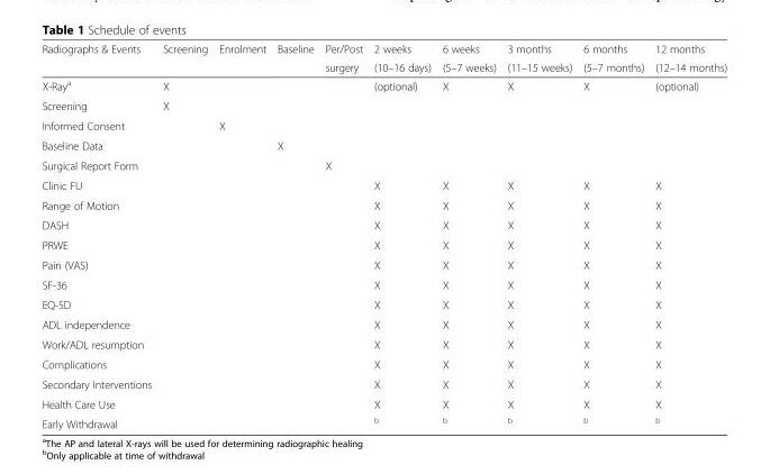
<table><thead><tr><td rowspan="2">Radiographs &amp; Events</td><td rowspan="2">Screening</td><td rowspan="2">Enrolment</td><td rowspan="2">Baseline</td><td rowspan="2">Per/Post surgery</td><td rowspan="2">2 weeks (10–16 days)</td><td rowspan="2">6 weeks (5–7 weeks)</td><td rowspan="2">3 months (11–15 weeks)</td><td rowspan="2">6 months (5–7 months)</td><td rowspan="2">12 months (12–14 months)</td></tr><tr></tr></thead><tbody><tr><td>X-Ray<sup>a</sup></td><td>X</td><td></td><td></td><td></td><td>(optional)</td><td>X</td><td>X</td><td>X</td><td>(optional)</td></tr><tr><td>Screening</td><td>X</td><td></td><td></td><td></td><td></td><td></td><td></td><td></td><td></td></tr><tr><td>Informed Consent</td><td></td><td>X</td><td></td><td></td><td></td><td></td><td></td><td></td><td></td></tr><tr><td>Baseline Data</td><td></td><td></td><td>X</td><td></td><td></td><td></td><td></td><td></td><td></td></tr><tr><td>Surgical Report Form</td><td></td><td></td><td></td><td>X</td><td></td><td></td><td></td><td></td><td></td></tr><tr><td>Clinic FU</td><td></td><td></td><td></td><td></td><td>X</td><td>X</td><td>X</td><td>X</td><td>X</td></tr><tr><td>Range of Motion</td><td></td><td></td><td></td><td></td><td>X</td><td>X</td><td>X</td><td>X</td><td>X</td></tr><tr><td>DASH</td><td></td><td></td><td></td><td></td><td>X</td><td>X</td><td>X</td><td>X</td><td>X</td></tr><tr><td>PRWE</td><td></td><td></td><td></td><td></td><td>X</td><td>X</td><td>X</td><td>X</td><td>X</td></tr><tr><td>Pain (VAS)</td><td></td><td></td><td></td><td></td><td>X</td><td>X</td><td>X</td><td>X</td><td>X</td></tr><tr><td>SF-36</td><td></td><td></td><td></td><td></td><td>X</td><td>X</td><td>X</td><td>X</td><td>X</td></tr><tr><td>EQ-5D</td><td></td><td></td><td></td><td></td><td>X</td><td>X</td><td>X</td><td>X</td><td>X</td></tr><tr><td>ADL independence</td><td></td><td></td><td></td><td></td><td>X</td><td>X</td><td>X</td><td>X</td><td>X</td></tr><tr><td>Work/ADL resumption</td><td></td><td></td><td></td><td></td><td>X</td><td>X</td><td>X</td><td>X</td><td>X</td></tr><tr><td>Complications</td><td></td><td></td><td></td><td></td><td>X</td><td>X</td><td>X</td><td>X</td><td>X</td></tr><tr><td>Secondary Interventions</td><td></td><td></td><td></td><td></td><td>X</td><td>X</td><td>X</td><td>X</td><td>X</td></tr><tr><td>Health Care Use</td><td></td><td></td><td></td><td></td><td>X</td><td>X</td><td>X</td><td>X</td><td>X</td></tr><tr><td>Early Withdrawal</td><td></td><td></td><td></td><td></td><td><sup>b</sup></td><td><sup>b</sup></td><td><sup>b</sup></td><td><sup>b</sup></td><td><sup>b</sup></td></tr></tbody></table>